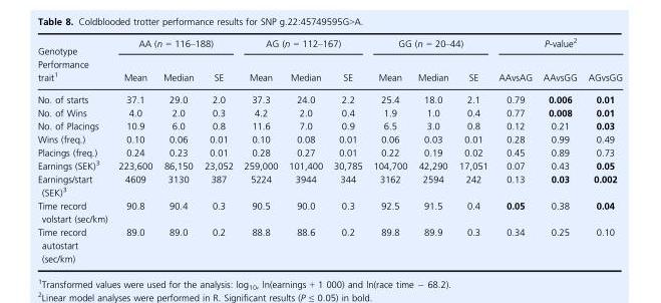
<table><thead><tr><td rowspan="2">Genotype Performance trait1</td><td colspan="3">AA (n = 116–188)</td><td colspan="3">AG (n = 112–167)</td><td colspan="3">GG (n = 20–44)</td><td colspan="3">P-value2</td></tr><tr><td>Mean</td><td>Median</td><td>SE</td><td>Mean</td><td>Median</td><td>SE</td><td>Mean</td><td>Median</td><td>SE</td><td>AAvsAG</td><td>AAvsGG</td><td>AGvsGG</td></tr></thead><tbody><tr><td>No. of starts</td><td>37.1</td><td>29.0</td><td>2.0</td><td>37.3</td><td>24.0</td><td>2.2</td><td>25.4</td><td>18.0</td><td>2.1</td><td>0.79</td><td>0.006</td><td>0.01</td></tr><tr><td>No. of Wins</td><td>4.0</td><td>2.0</td><td>0.3</td><td>4.2</td><td>2.0</td><td>0.4</td><td>1.9</td><td>1.0</td><td>0.4</td><td>0.77</td><td>0.008</td><td>0.01</td></tr><tr><td>No. of Placings</td><td>10.9</td><td>6.0</td><td>0.8</td><td>11.6</td><td>7.0</td><td>0.9</td><td>6.5</td><td>3.0</td><td>0.8</td><td>0.12</td><td>0.21</td><td>0.03</td></tr><tr><td>Wins (freq.)</td><td>0.10</td><td>0.06</td><td>0.01</td><td>0.10</td><td>0.08</td><td>0.01</td><td>0.06</td><td>0.03</td><td>0.01</td><td>0.28</td><td>0.99</td><td>0.49</td></tr><tr><td>Placings (freq.)</td><td>0.24</td><td>0.23</td><td>0.01</td><td>0.28</td><td>0.27</td><td>0.01</td><td>0.22</td><td>0.19</td><td>0.02</td><td>0.45</td><td>0.89</td><td>0.73</td></tr><tr><td>Earnings (SEK)3</td><td>223,600</td><td>86,150</td><td>23,052</td><td>259,000</td><td>101,400</td><td>30,785</td><td>104,700</td><td>42,290</td><td>17,051</td><td>0.07</td><td>0.43</td><td>0.05</td></tr><tr><td>Earnings/start (SEK)3</td><td>4609</td><td>3130</td><td>387</td><td>5224</td><td>3944</td><td>344</td><td>3162</td><td>2594</td><td>242</td><td>0.13</td><td>0.03</td><td>0.002</td></tr><tr><td>Time record volstart (sec/km)</td><td>90.8</td><td>90.4</td><td>0.3</td><td>90.5</td><td>90.0</td><td>0.3</td><td>92.5</td><td>91.5</td><td>0.4</td><td>0.05</td><td>0.38</td><td>0.04</td></tr><tr><td>Time record autostart (sec/km)</td><td>89.0</td><td>89.0</td><td>0.2</td><td>88.8</td><td>88.6</td><td>0.2</td><td>89.8</td><td>89.9</td><td>0.3</td><td>0.34</td><td>0.25</td><td>0.10</td></tr></tbody></table>